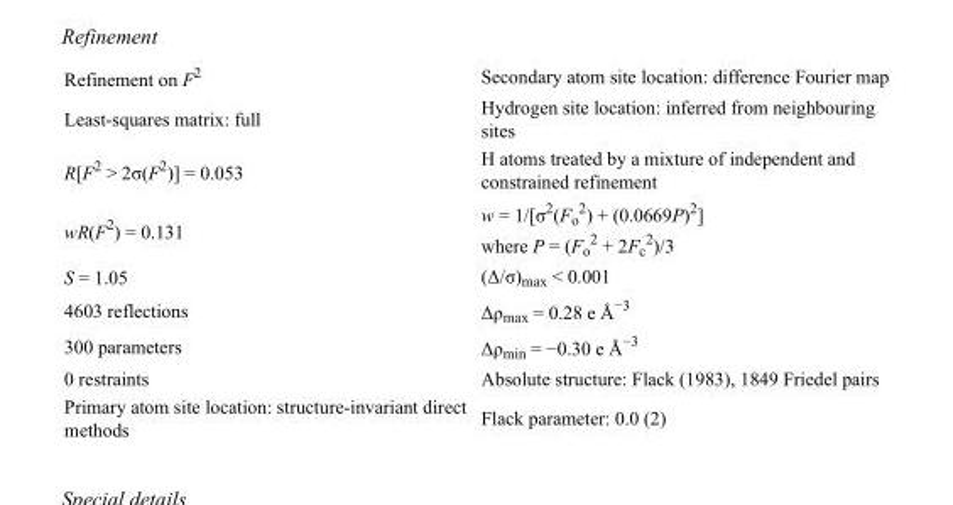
<table><tbody><tr><td>Refinement on F<sup>2</sup></td><td>Secondary atom site location: difference Fourier map</td></tr><tr><td>Least-squares matrix: full</td><td>Hydrogen site location: inferred from neighbouring sites</td></tr><tr><td>R[F<sup>2</sup> &gt; 2σ(F<sup>2</sup>)] = 0.053</td><td>H atoms treated by a mixture of independent and constrained refinement</td></tr><tr><td>wR(F<sup>2</sup>) = 0.131</td><td>w = 1/[σ<sup>2</sup>(F<sub>o</sub> <sup>2</sup>) + (0.0669P)<sup>2</sup>] where P = (F<sub>o</sub> <sup>2</sup> + 2F<sub>c</sub> <sup>2</sup>)/3</td></tr><tr><td>S = 1.05</td><td>(Δ/σ)<sub>max</sub> &lt; 0.001</td></tr><tr><td>4603 reflections</td><td>Δρ<sub>max</sub> = 0.28 e Å<sup>−3</sup></td></tr><tr><td>300 parameters</td><td>Δρ<sub>min</sub> = −0.30 e Å<sup>−3</sup></td></tr><tr><td>0 restraints</td><td>Absolute structure: Flack (1983), 1849 Friedel pairs</td></tr><tr><td>Primary atom site location: structure-invariant direct methods</td><td>Flack parameter: 0.0 (2)</td></tr></tbody></table>